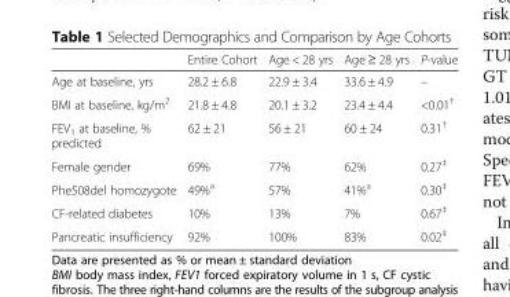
<table><thead><tr><td></td><td>Entire Cohort</td><td>Age &lt; 28 yrs</td><td>Age ≥ 28 yrs</td><td>P-value</td></tr></thead><tbody><tr><td>Age at baseline, yrs</td><td>28.2 ± 6.8</td><td>22.9 ± 3.4</td><td>33.6 ± 4.9</td><td>–</td></tr><tr><td>BMI at baseline, kg/m<sup>2</sup></td><td>21.8 ± 4.8</td><td>20.1 ± 3.2</td><td>23.4 ± 4.4</td><td>&lt;0.01<sup>†</sup></td></tr><tr><td>FEV<sub>1</sub> at baseline, % predicted</td><td>62 ± 21</td><td>56 ± 21</td><td>60 ± 24</td><td>0.31<sup>†</sup></td></tr><tr><td>Female gender</td><td>69%</td><td>77%</td><td>62%</td><td>0.27<sup>‡</sup></td></tr><tr><td>Phe508del homozygote</td><td>49%<sup>a</sup></td><td>57%</td><td>41%<sup>a</sup></td><td>0.30<sup>‡</sup></td></tr><tr><td>CF-related diabetes</td><td>10%</td><td>13%</td><td>7%</td><td>0.67<sup>‡</sup></td></tr><tr><td>Pancreatic insufficiency</td><td>92%</td><td>100%</td><td>83%</td><td>0.02<sup>‡</sup></td></tr></tbody></table>